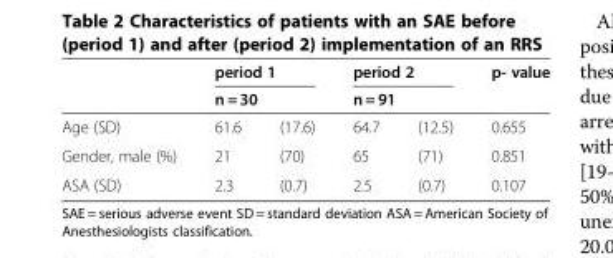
<table><thead><tr><td rowspan="3">Age (SD)</td><td rowspan="2" colspan="2">period 1 n = 30</td><td rowspan="2" colspan="2">period 2 n = 91</td><td rowspan="3">p- value 0.655</td></tr><tr></tr><tr><td>61.6</td><td>(17.6)</td><td>64.7</td><td>(12.5)</td></tr></thead><tbody><tr><td>Gender, male (%)</td><td>21</td><td>(70)</td><td>65</td><td>(71)</td><td>0.851</td></tr><tr><td>ASA (SD)</td><td>2.3</td><td>(0.7)</td><td>2.5</td><td>(0.7)</td><td>0.107</td></tr></tbody></table>